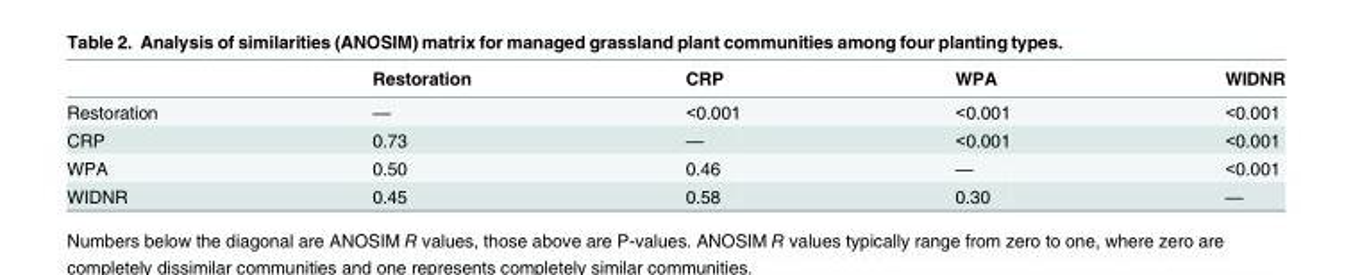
<table><thead><tr><td></td><td>Restoration</td><td>CRP</td><td>WPA</td><td>WIDNR</td></tr></thead><tbody><tr><td>Restoration</td><td>—</td><td>&lt;0.001</td><td>&lt;0.001</td><td>&lt;0.001</td></tr><tr><td>CRP</td><td>0.73</td><td>—</td><td>&lt;0.001</td><td>&lt;0.001</td></tr><tr><td>WPA</td><td>0.50</td><td>0.46</td><td>—</td><td>&lt;0.001</td></tr><tr><td>WIDNR</td><td>0.45</td><td>0.58</td><td>0.30</td><td>—</td></tr></tbody></table>